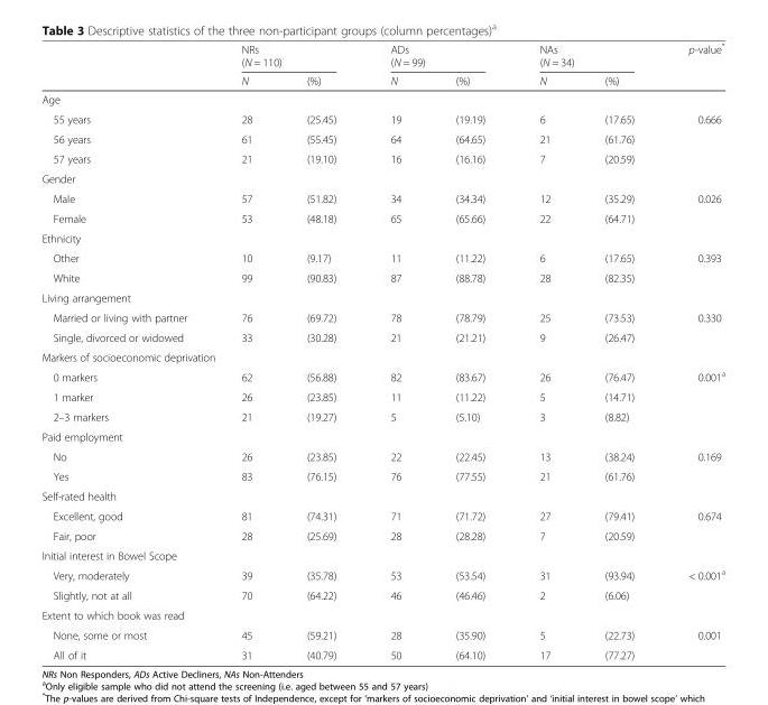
<table><thead><tr><td rowspan="2"></td><td colspan="2">NRs (N = 110)</td><td colspan="2">ADs (N = 99)</td><td colspan="2">NAs (N = 34)</td><td rowspan="2">p-value*</td></tr><tr><td>N</td><td>(%)</td><td>N</td><td>(%)</td><td>N</td><td>(%)</td></tr></thead><tbody><tr><td colspan="8">Age</td></tr><tr><td>55 years</td><td>28</td><td>(25.45)</td><td>19</td><td>(19.19)</td><td>6</td><td>(17.65)</td><td rowspan="3">0.666</td></tr><tr><td>56 years</td><td>61</td><td>(55.45)</td><td>64</td><td>(64.65)</td><td>21</td><td>(61.76)</td></tr><tr><td>57 years</td><td>21</td><td>(19.10)</td><td>16</td><td>(16.16)</td><td>7</td><td>(20.59)</td></tr><tr><td colspan="8">Gender</td></tr><tr><td>Male</td><td>57</td><td>(51.82)</td><td>34</td><td>(34.34)</td><td>12</td><td>(35.29)</td><td rowspan="2">0.026</td></tr><tr><td>Female</td><td>53</td><td>(48.18)</td><td>65</td><td>(65.66)</td><td>22</td><td>(64.71)</td></tr><tr><td colspan="8">Ethnicity</td></tr><tr><td>Other</td><td>10</td><td>(9.17)</td><td>11</td><td>(11.22)</td><td>6</td><td>(17.65)</td><td rowspan="2">0.393</td></tr><tr><td>White</td><td>99</td><td>(90.83)</td><td>87</td><td>(88.78)</td><td>28</td><td>(82.35)</td></tr><tr><td colspan="8">Living arrangement</td></tr><tr><td>Married or living with partner</td><td>76</td><td>(69.72)</td><td>78</td><td>(78.79)</td><td>25</td><td>(73.53)</td><td rowspan="2">0.330</td></tr><tr><td>Single, divorced or widowed</td><td>33</td><td>(30.28)</td><td>21</td><td>(21.21)</td><td>9</td><td>(26.47)</td></tr><tr><td colspan="8">Markers of socioeconomic deprivation</td></tr><tr><td>0 markers</td><td>62</td><td>(56.88)</td><td>82</td><td>(83.67)</td><td>26</td><td>(76.47)</td><td rowspan="3">0.001<sup>a</sup></td></tr><tr><td>1 marker</td><td>26</td><td>(23.85)</td><td>11</td><td>(11.22)</td><td>5</td><td>(14.71)</td></tr><tr><td>2–3 markers</td><td>21</td><td>(19.27)</td><td>5</td><td>(5.10)</td><td>3</td><td>(8.82)</td></tr><tr><td colspan="8">Paid employment</td></tr><tr><td>No</td><td>26</td><td>(23.85)</td><td>22</td><td>(22.45)</td><td>13</td><td>(38.24)</td><td rowspan="2">0.169</td></tr><tr><td>Yes</td><td>83</td><td>(76.15)</td><td>76</td><td>(77.55)</td><td>21</td><td>(61.76)</td></tr><tr><td colspan="8">Self-rated health</td></tr><tr><td>Excellent, good</td><td>81</td><td>(74.31)</td><td>71</td><td>(71.72)</td><td>27</td><td>(79.41)</td><td rowspan="2">0.674</td></tr><tr><td>Fair, poor</td><td>28</td><td>(25.69)</td><td>28</td><td>(28.28)</td><td>7</td><td>(20.59)</td></tr><tr><td colspan="8">Initial interest in Bowel Scope</td></tr><tr><td>Very, moderately</td><td>39</td><td>(35.78)</td><td>53</td><td>(53.54)</td><td>31</td><td>(93.94)</td><td rowspan="2">&lt; 0.001<sup>a</sup></td></tr><tr><td>Slightly, not at all</td><td>70</td><td>(64.22)</td><td>46</td><td>(46.46)</td><td>2</td><td>(6.06)</td></tr><tr><td colspan="8">Extent to which book was read</td></tr><tr><td>None, some or most</td><td>45</td><td>(59.21)</td><td>28</td><td>(35.90)</td><td>5</td><td>(22.73)</td><td rowspan="2">0.001</td></tr><tr><td>All of it</td><td>31</td><td>(40.79)</td><td>50</td><td>(64.10)</td><td>17</td><td>(77.27)</td></tr></tbody></table>